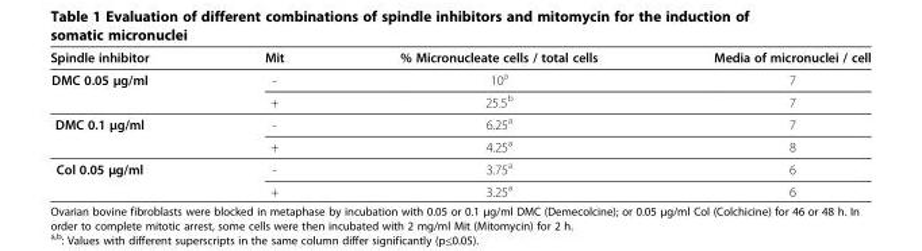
<table><thead><tr><td>Spindle inhibitor</td><td>Mit</td><td>% Micronucleate cells / total cells</td><td>Media of micronuclei / cell</td></tr></thead><tbody><tr><td rowspan="2">DMC 0.05 μg/ml</td><td>-</td><td>10<sup>a</sup></td><td>7</td></tr><tr><td>+</td><td>25.5<sup>b</sup></td><td>7</td></tr><tr><td rowspan="2">DMC 0.1 μg/ml</td><td>-</td><td>6.25<sup>a</sup></td><td>7</td></tr><tr><td>+</td><td>4.25<sup>a</sup></td><td>8</td></tr><tr><td rowspan="2">Col 0.05 μg/ml</td><td>-</td><td>3.75<sup>a</sup></td><td>6</td></tr><tr><td>+</td><td>3.25<sup>a</sup></td><td>6</td></tr></tbody></table>